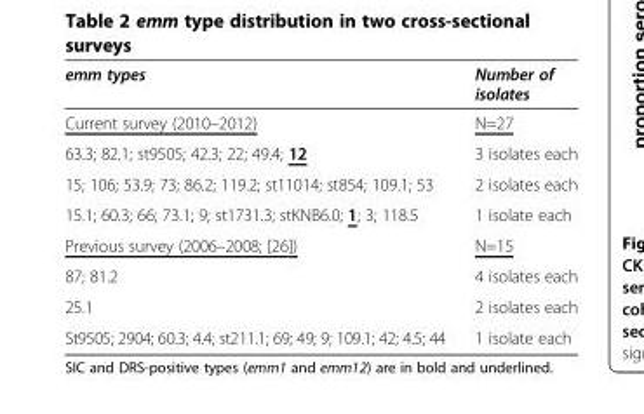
<table><thead><tr><td>emm types</td><td>Number of isolates</td></tr></thead><tbody><tr><td>Current survey (2010–2012)</td><td>N=27</td></tr><tr><td>63.3; 82.1; st9505; 42.3; 22; 49.4; 12</td><td>3 isolates each</td></tr><tr><td>15; 106; 53.9; 73; 86.2; 119.2; st11014; st854; 109.1; 53</td><td>2 isolates each</td></tr><tr><td>15.1; 60.3; 66; 73.1; 9; st1731.3; stKNB6.0; 1; 3; 118.5</td><td>1 isolate each</td></tr><tr><td>Previous survey (2006–2008; [26])</td><td>N=15</td></tr><tr><td>87; 81.2</td><td>4 isolates each</td></tr><tr><td>25.1</td><td>2 isolates each</td></tr><tr><td>St9505; 2904; 60.3; 4.4; st211.1; 69; 49; 9; 109.1; 42; 4.5; 44</td><td>1 isolate each</td></tr></tbody></table>